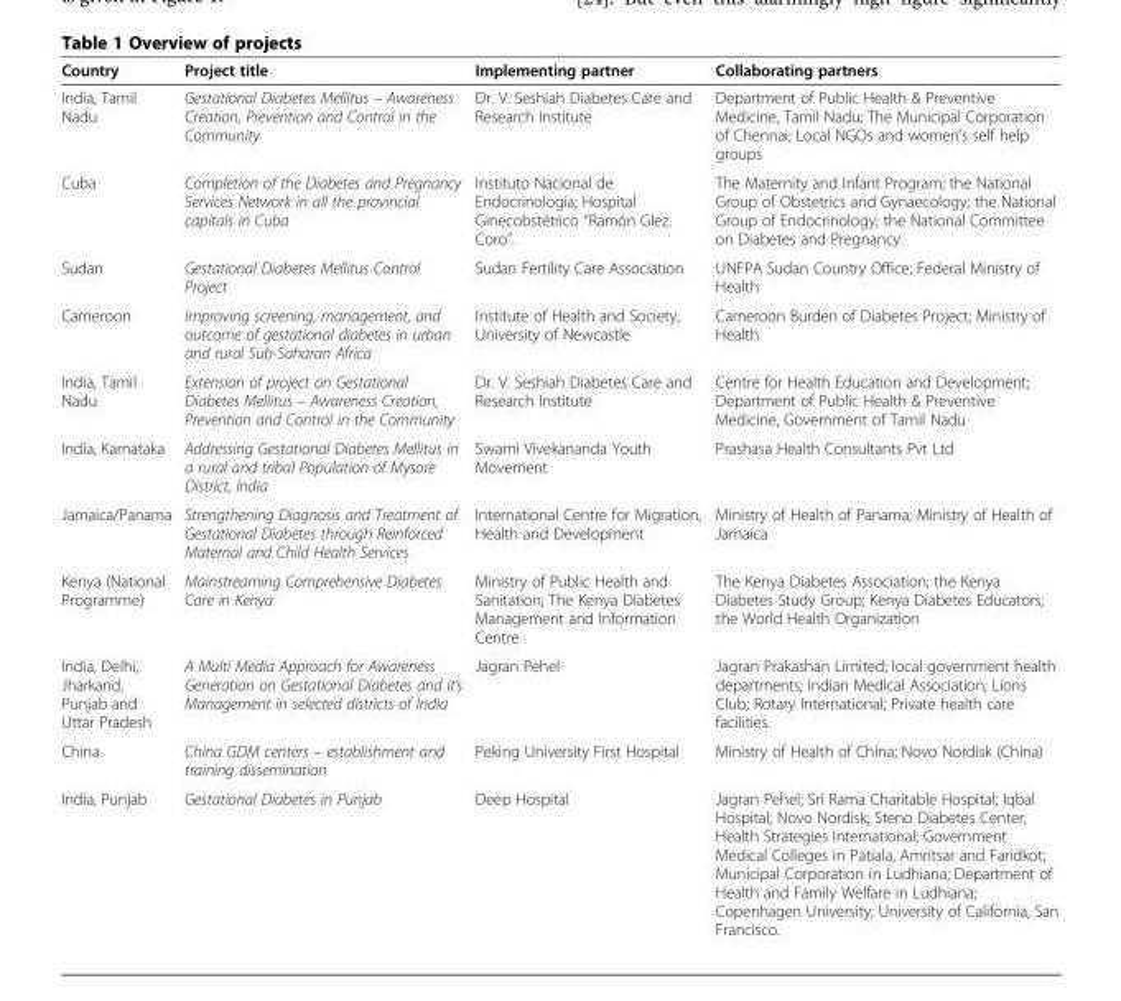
<table><thead><tr><td>Country</td><td>Project title</td><td>Implementing partner</td><td>Collaborating partners</td></tr></thead><tbody><tr><td>India, Tamil Nadu</td><td>Gestational Diabetes Mellitus – Awareness Creation, Prevention and Control in the Community</td><td>Dr. V. Seshiah Diabetes Care and Research Institute</td><td>Department of Public Health &amp; Preventive Medicine, Tamil Nadu; The Municipal Corporation of Chennai; Local NGOs and women’s self help groups</td></tr><tr><td>Cuba</td><td>Completion of the Diabetes and Pregnancy Services Network in all the provincial capitals in Cuba</td><td>Instituto Nacional de Endocrinología; Hospital Ginecobstétrico “Ramón Glez. Coro”.</td><td>The Maternity and Infant Program; the National Group of Obstetrics and Gynaecology; the National Group of Endocrinology; the National Committee on Diabetes and Pregnancy.</td></tr><tr><td>Sudan</td><td>Gestational Diabetes Mellitus Control Project</td><td>Sudan Fertility Care Association</td><td>UNFPA Sudan Country Office; Federal Ministry of Health</td></tr><tr><td>Cameroon</td><td>Improving screening, management, and outcome of gestational diabetes in urban and rural Sub-Saharan Africa</td><td>Institute of Health and Society, University of Newcastle</td><td>Cameroon Burden of Diabetes Project; Ministry of Health</td></tr><tr><td>India, Tamil Nadu</td><td>Extension of project on Gestational Diabetes Mellitus – Awareness Creation, Prevention and Control in the Community</td><td>Dr. V. Seshiah Diabetes Care and Research Institute</td><td>Centre for Health Education and Development; Department of Public Health &amp; Preventive Medicine, Government of Tamil Nadu</td></tr><tr><td>India, Karnataka</td><td>Addressing Gestational Diabetes Mellitus in a rural and tribal Population of Mysore District, India</td><td>Swami Vivekananda Youth Movement</td><td>Prashasa Health Consultants Pvt Ltd</td></tr><tr><td>Jamaica/Panama</td><td>Strengthening Diagnosis and Treatment of Gestational Diabetes through Reinforced Maternal and Child Health Services</td><td>International Centre for Migration, Health and Development</td><td>Ministry of Health of Panama; Ministry of Health of Jamaica</td></tr><tr><td>Kenya (National Programme)</td><td>Mainstreaming Comprehensive Diabetes Care in Kenya</td><td>Ministry of Public Health and Sanitation; The Kenya Diabetes Management and Information Centre</td><td>The Kenya Diabetes Association; the Kenya Diabetes Study Group; Kenya Diabetes Educators; the World Health Organization</td></tr><tr><td>India, Delhi, Jharkand, Punjab and Uttar Pradesh</td><td>A Multi Media Approach for Awareness Generation on Gestational Diabetes and it’s Management in selected districts of India</td><td>Jagran Pehel</td><td>Jagran Prakashan Limited; local government health departments; Indian Medical Association; Lions Club; Rotary International; Private health care facilities.</td></tr><tr><td>China</td><td>China GDM centers – establishment and training dissemination</td><td>Peking University First Hospital</td><td>Ministry of Health of China; Novo Nordisk (China)</td></tr><tr><td>India, Punjab</td><td>Gestational Diabetes in Punjab</td><td>Deep Hospital</td><td>Jagran Pehel; Sri Rama Charitable Hospital; Iqbal Hospital; Novo Nordisk; Steno Diabetes Center; Health Strategies International; Government Medical Colleges in Patiala, Amritsar and Faridkot; Municipal Corporation in Ludhiana; Department of Health and Family Welfare in Ludhiana; Copenhagen University; University of California, San Francisco.</td></tr></tbody></table>